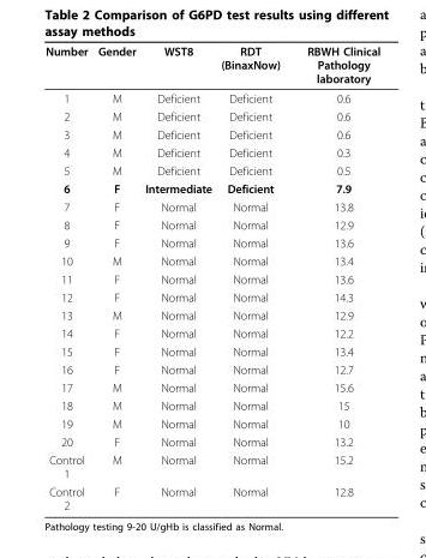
<table><thead><tr><td>Number</td><td>Gender</td><td>WST8</td><td>RDT (BinaxNow)</td><td>RBWH Clinical Pathology laboratory</td></tr></thead><tbody><tr><td>1</td><td>M</td><td>Deficient</td><td>Deficient</td><td>0.6</td></tr><tr><td>2</td><td>M</td><td>Deficient</td><td>Deficient</td><td>0.6</td></tr><tr><td>3</td><td>M</td><td>Deficient</td><td>Deficient</td><td>0.6</td></tr><tr><td>4</td><td>M</td><td>Deficient</td><td>Deficient</td><td>0.3</td></tr><tr><td>5</td><td>M</td><td>Deficient</td><td>Deficient</td><td>0.5</td></tr><tr><td>6</td><td>F</td><td>Intermediate</td><td>Deficient</td><td>7.9</td></tr><tr><td>7</td><td>F</td><td>Normal</td><td>Normal</td><td>13.8</td></tr><tr><td>8</td><td>F</td><td>Normal</td><td>Normal</td><td>12.9</td></tr><tr><td>9</td><td>F</td><td>Normal</td><td>Normal</td><td>13.6</td></tr><tr><td>10</td><td>M</td><td>Normal</td><td>Normal</td><td>13.4</td></tr><tr><td>11</td><td>F</td><td>Normal</td><td>Normal</td><td>13.6</td></tr><tr><td>12</td><td>F</td><td>Normal</td><td>Normal</td><td>14.3</td></tr><tr><td>13</td><td>M</td><td>Normal</td><td>Normal</td><td>12.9</td></tr><tr><td>14</td><td>F</td><td>Normal</td><td>Normal</td><td>12.2</td></tr><tr><td>15</td><td>F</td><td>Normal</td><td>Normal</td><td>13.4</td></tr><tr><td>16</td><td>F</td><td>Normal</td><td>Normal</td><td>12.7</td></tr><tr><td>17</td><td>M</td><td>Normal</td><td>Normal</td><td>15.6</td></tr><tr><td>18</td><td>M</td><td>Normal</td><td>Normal</td><td>15</td></tr><tr><td>19</td><td>M</td><td>Normal</td><td>Normal</td><td>10</td></tr><tr><td>20</td><td>F</td><td>Normal</td><td>Normal</td><td>13.2</td></tr><tr><td>Control 1</td><td>M</td><td>Normal</td><td>Normal</td><td>15.2</td></tr><tr><td>Control 2</td><td>F</td><td>Normal</td><td>Normal</td><td>12.8</td></tr></tbody></table>